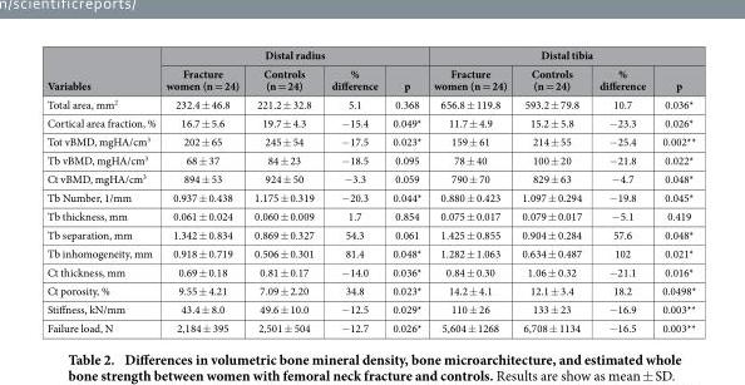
<table><thead><tr><td rowspan="2">Variables</td><td colspan="4">Distal radius</td><td colspan="4">Distal tibia</td></tr><tr><td>Fracture women (n = 24)</td><td>Controls (n = 24)</td><td>% difference</td><td>p</td><td>Fracture women (n = 24)</td><td>Controls (n = 24)</td><td>% difference</td><td>p</td></tr></thead><tbody><tr><td>Total area, mm<sup>2</sup></td><td>232.4 ± 46.8</td><td>221.2 ± 32.8</td><td>5.1</td><td>0.368</td><td>656.8 ± 119.8</td><td>593.2 ± 79.8</td><td>10.7</td><td>0.036*</td></tr><tr><td>Cortical area fraction, %</td><td>16.7 ± 5.6</td><td>19.7 ± 4.3</td><td>− 15.4</td><td>0.049*</td><td>11.7 ± 4.9</td><td>15.2 ± 5.8</td><td>− 23.3</td><td>0.026*</td></tr><tr><td>Tot vBMD, mgHA/cm<sup>3</sup></td><td>202 ± 65</td><td>245 ± 54</td><td>− 17.5</td><td>0.023*</td><td>159 ± 61</td><td>214 ± 55</td><td>− 25.4</td><td>0.002**</td></tr><tr><td>Tb vBMD, mgHA/cm<sup>3</sup></td><td>68 ± 37</td><td>84 ± 23</td><td>− 18.5</td><td>0.095</td><td>78 ± 40</td><td>100 ± 20</td><td>− 21.8</td><td>0.022*</td></tr><tr><td>Ct vBMD, mgHA/cm<sup>3</sup></td><td>894 ± 53</td><td>924 ± 50</td><td>− 3.3</td><td>0.059</td><td>790 ± 70</td><td>829 ± 63</td><td>− 4.7</td><td>0.048*</td></tr><tr><td>Tb Number, 1/mm</td><td>0.937 ± 0.438</td><td>1.175 ± 0.319</td><td>− 20.3</td><td>0.044*</td><td>0.880 ± 0.423</td><td>1.097 ± 0.294</td><td>− 19.8</td><td>0.045*</td></tr><tr><td>Tb thickness, mm</td><td>0.061 ± 0.024</td><td>0.060 ± 0.009</td><td>1.7</td><td>0.854</td><td>0.075 ± 0.017</td><td>0.079 ± 0.017</td><td>− 5.1</td><td>0.419</td></tr><tr><td>Tb separation, mm</td><td>1.342 ± 0.834</td><td>0.869 ± 0.327</td><td>54.3</td><td>0.061</td><td>1.425 ± 0.855</td><td>0.904 ± 0.284</td><td>57.6</td><td>0.048*</td></tr><tr><td>Tb inhomogeneity, mm</td><td>0.918 ± 0.719</td><td>0.506 ± 0.301</td><td>81.4</td><td>0.048*</td><td>1.282 ± 1.063</td><td>0.634 ± 0.487</td><td>102</td><td>0.021*</td></tr><tr><td>Ct thickness, mm</td><td>0.69 ± 0.18</td><td>0.81 ± 0.17</td><td>− 14.0</td><td>0.036*</td><td>0.84 ± 0.30</td><td>1.06 ± 0.32</td><td>− 21.1</td><td>0.016*</td></tr><tr><td>Ct porosity, %</td><td>9.55 ± 4.21</td><td>7.09 ± 2.20</td><td>34.8</td><td>0.023*</td><td>14.2 ± 4.1</td><td>12.1 ± 3.4</td><td>18.2</td><td>0.0498*</td></tr><tr><td>Stiffness, kN/mm</td><td>43.4 ± 8.0</td><td>49.6 ± 10.0</td><td>− 12.5</td><td>0.029*</td><td>110 ± 26</td><td>133 ± 23</td><td>− 16.9</td><td>0.003**</td></tr><tr><td>Failure load, N</td><td>2,184 ± 395</td><td>2,501 ± 504</td><td>− 12.7</td><td>0.026*</td><td>5,604 ± 1268</td><td>6,708 ± 1134</td><td>− 16.5</td><td>0.003**</td></tr></tbody></table>